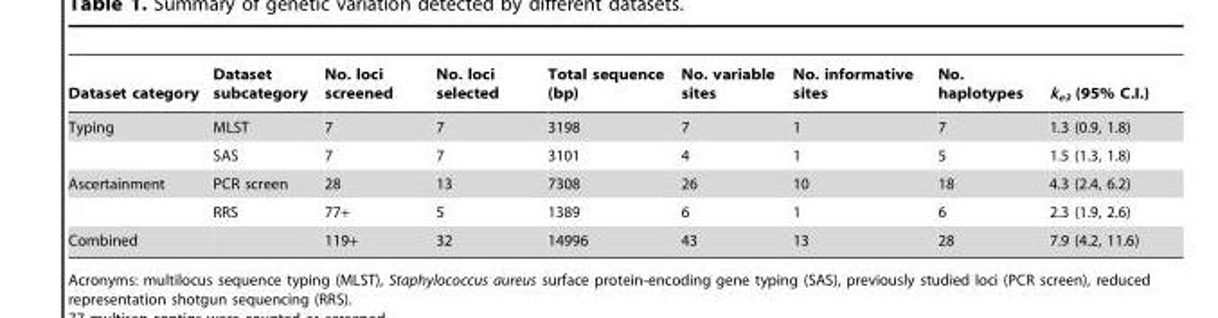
<table><thead><tr><td>Dataset category</td><td>Dataset subcategory</td><td>No. loci screened</td><td>No. loci selected</td><td>Total sequence (bp)</td><td>No. variable sites</td><td>No. informative sites</td><td>No. haplotypes</td><td>k<sub>e3</sub> (95% C.I.)</td></tr></thead><tbody><tr><td rowspan="2">Typing</td><td>MLST</td><td>7</td><td>7</td><td>3198</td><td>7</td><td>1</td><td>7</td><td>1.3 (0.9, 1.8)</td></tr><tr><td>SAS</td><td>7</td><td>7</td><td>3101</td><td>4</td><td>1</td><td>5</td><td>1.5 (1.3, 1.8)</td></tr><tr><td rowspan="2">Ascertainment</td><td>PCR screen</td><td>28</td><td>13</td><td>7308</td><td>26</td><td>10</td><td>18</td><td>4.3 (2.4, 6.2)</td></tr><tr><td>RRS</td><td>77+</td><td>5</td><td>1389</td><td>6</td><td>1</td><td>6</td><td>2.3 (1.9, 2.6)</td></tr><tr><td>Combined</td><td></td><td>119+</td><td>32</td><td>14996</td><td>43</td><td>13</td><td>28</td><td>7.9 (4.2, 11.6)</td></tr></tbody></table>